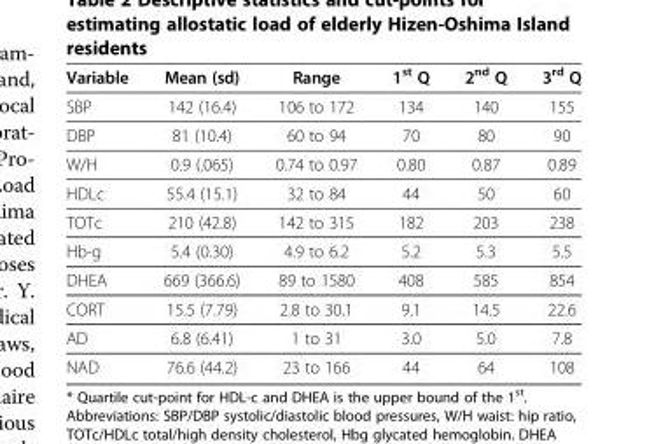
<table><thead><tr><td>Variable</td><td>Mean (sd)</td><td>Range</td><td>1<sup>st</sup> Q</td><td>2<sup>nd</sup> Q</td><td>3<sup>rd</sup> Q</td></tr></thead><tbody><tr><td>SBP</td><td>142 (16.4)</td><td>106 to 172</td><td>134</td><td>140</td><td>155</td></tr><tr><td>DBP</td><td>81 (10.4)</td><td>60 to 94</td><td>70</td><td>80</td><td>90</td></tr><tr><td>W/H</td><td>0.9 (.065)</td><td>0.74 to 0.97</td><td>0.80</td><td>0.87</td><td>0.89</td></tr><tr><td>HDLc</td><td>55.4 (15.1)</td><td>32 to 84</td><td>44</td><td>50</td><td>60</td></tr><tr><td>TOTc</td><td>210 (42.8)</td><td>142 to 315</td><td>182</td><td>203</td><td>238</td></tr><tr><td>Hb-g</td><td>5.4 (0.30)</td><td>4.9 to 6.2</td><td>5.2</td><td>5.3</td><td>5.5</td></tr><tr><td>DHEA</td><td>669 (366.6)</td><td>89 to 1580</td><td>408</td><td>585</td><td>854</td></tr><tr><td>CORT</td><td>15.5 (7.79)</td><td>2.8 to 30.1</td><td>9.1</td><td>14.5</td><td>22.6</td></tr><tr><td>AD</td><td>6.8 (6.41)</td><td>1 to 31</td><td>3.0</td><td>5.0</td><td>7.8</td></tr><tr><td>NAD</td><td>76.6 (44.2)</td><td>23 to 166</td><td>44</td><td>64</td><td>108</td></tr></tbody></table>